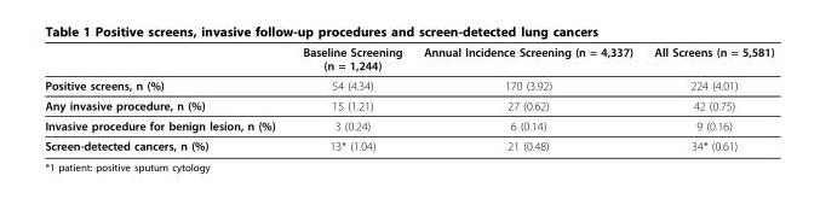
<table><thead><tr><td></td><td>Baseline Screening (n = 1,244)</td><td>Annual Incidence Screening (n = 4,337)</td><td>All Screens (n = 5,581)</td></tr></thead><tbody><tr><td>Positive screens, n (%)</td><td>54 (4.34)</td><td>170 (3.92)</td><td>224 (4.01)</td></tr><tr><td>Any invasive procedure, n (%)</td><td>15 (1.21)</td><td>27 (0.62)</td><td>42 (0.75)</td></tr><tr><td>Invasive procedure for benign lesion, n (%)</td><td>3 (0.24)</td><td>6 (0.14)</td><td>9 (0.16)</td></tr><tr><td>Screen-detected cancers, n (%)</td><td>13* (1.04)</td><td>21 (0.48)</td><td>34* (0.61)</td></tr></tbody></table>